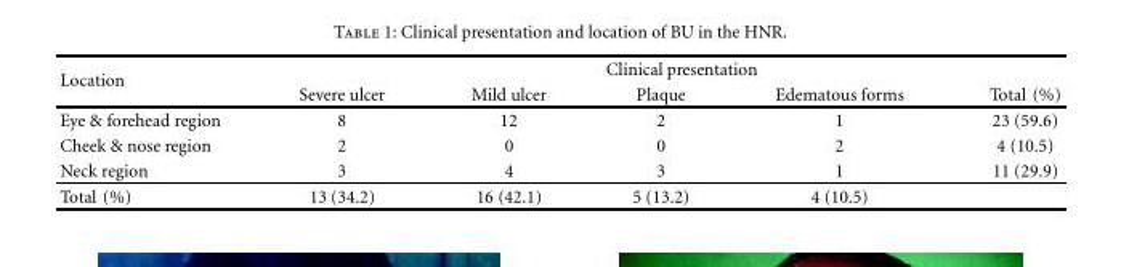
<table><thead><tr><td rowspan="2">Location</td><td colspan="5">Clinical presentation</td></tr><tr><td>Severe ulcer</td><td>Mild ulcer</td><td>Plaque</td><td>Edematous forms</td><td>Total (%)</td></tr></thead><tbody><tr><td>Eye &amp; forehead region</td><td>8</td><td>12</td><td>2</td><td>1</td><td>23 (59.6)</td></tr><tr><td>Cheek &amp; nose region</td><td>2</td><td>0</td><td>0</td><td>2</td><td>4 (10.5)</td></tr><tr><td>Neck region</td><td>3</td><td>4</td><td>3</td><td>1</td><td>11 (29.9)</td></tr><tr><td>Total (%)</td><td>13 (34.2)</td><td>16 (42.1)</td><td>5 (13.2)</td><td>4 (10.5)</td><td></td></tr></tbody></table>